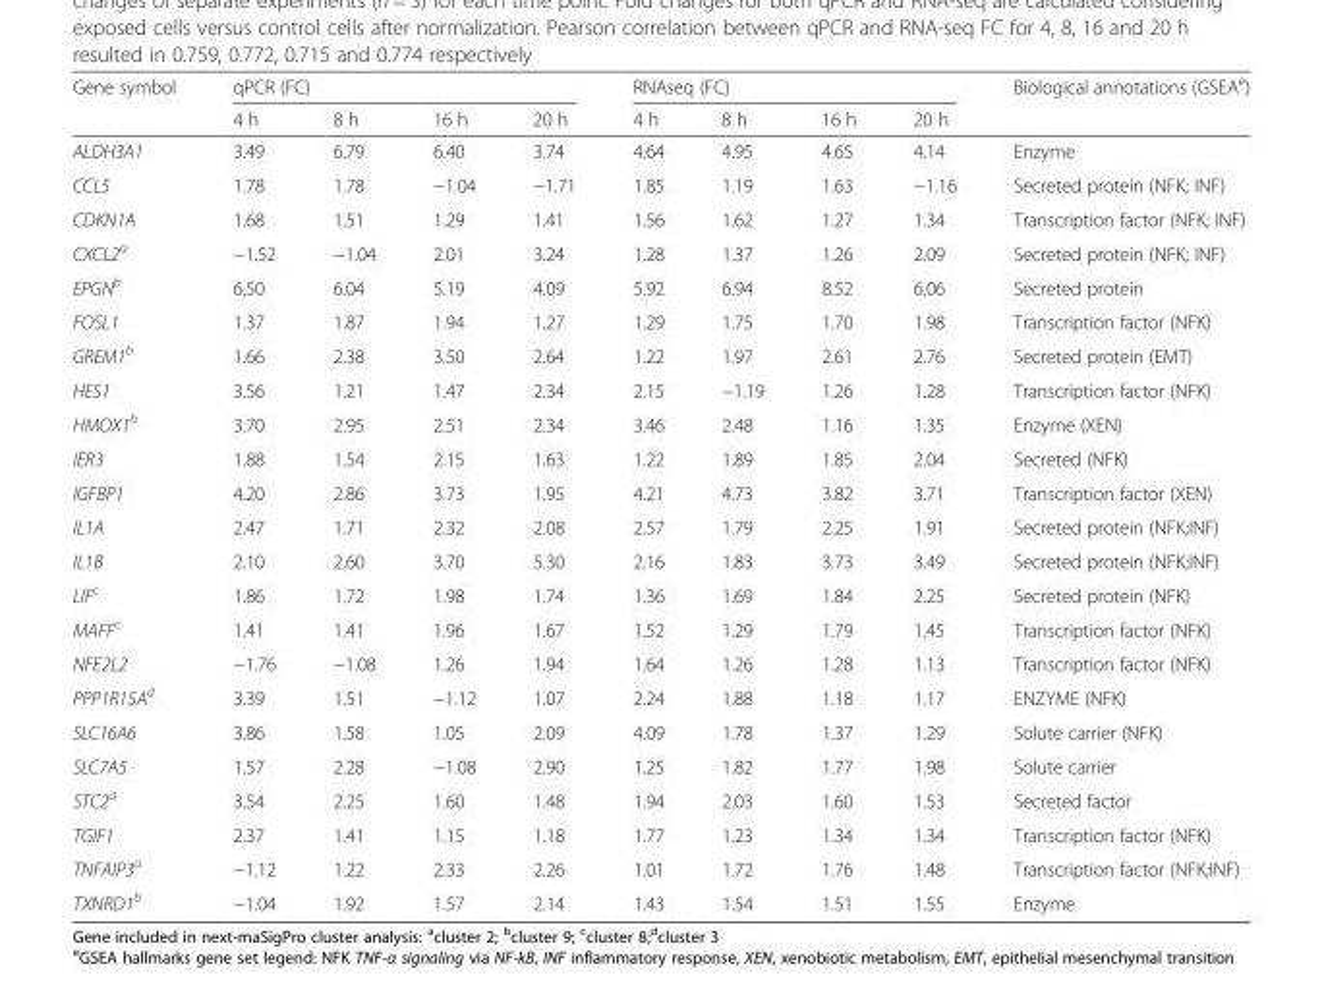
<table><thead><tr><td rowspan="2">Gene symbol</td><td colspan="4">qPCR (FC)</td><td colspan="4">RNAseq (FC)</td><td rowspan="2">Biological annotations (GSEA<sup>e</sup>)</td></tr><tr><td>4 h</td><td>8 h</td><td>16 h</td><td>20 h</td><td>4 h</td><td>8 h</td><td>16 h</td><td>20 h</td></tr></thead><tbody><tr><td>ALDH3A1</td><td>3.49</td><td>6.79</td><td>6.40</td><td>3.74</td><td>4.64</td><td>4.95</td><td>4.65</td><td>4.14</td><td>Enzyme</td></tr><tr><td>CCL5</td><td>1.78</td><td>1.78</td><td>−1.04</td><td>−1.71</td><td>1.85</td><td>1.19</td><td>1.63</td><td>−1.16</td><td>Secreted protein (NFK; INF)</td></tr><tr><td>CDKN1A</td><td>1.68</td><td>1.51</td><td>1.29</td><td>1.41</td><td>1.56</td><td>1.62</td><td>1.27</td><td>1.34</td><td>Transcription factor (NFK; INF)</td></tr><tr><td>CXCL2<sup>a</sup></td><td>−1.52</td><td>−1.04</td><td>2.01</td><td>3.24</td><td>1.28</td><td>1.37</td><td>1.26</td><td>2.09</td><td>Secreted protein (NFK; INF)</td></tr><tr><td>EPGN<sup>b</sup></td><td>6.50</td><td>6.04</td><td>5.19</td><td>4.09</td><td>5.92</td><td>6.94</td><td>8.52</td><td>6.06</td><td>Secreted protein</td></tr><tr><td>FOSL1</td><td>1.37</td><td>1.87</td><td>1.94</td><td>1.27</td><td>1.29</td><td>1.75</td><td>1.70</td><td>1.98</td><td>Transcription factor (NFK)</td></tr><tr><td>GREM1<sup>b</sup></td><td>1.66</td><td>2.38</td><td>3.50</td><td>2.64</td><td>1.22</td><td>1.97</td><td>2.61</td><td>2.76</td><td>Secreted protein (EMT)</td></tr><tr><td>HES1</td><td>3.56</td><td>1.21</td><td>1.47</td><td>2.34</td><td>2.15</td><td>−1.19</td><td>1.26</td><td>1.28</td><td>Transcription factor (NFK)</td></tr><tr><td>HMOX1<sup>b</sup></td><td>3.70</td><td>2.95</td><td>2.51</td><td>2.34</td><td>3.46</td><td>2.48</td><td>1.16</td><td>1.35</td><td>Enzyme (XEN)</td></tr><tr><td>IER3</td><td>1.88</td><td>1.54</td><td>2.15</td><td>1.63</td><td>1.22</td><td>1.89</td><td>1.85</td><td>2.04</td><td>Secreted (NFK)</td></tr><tr><td>IGFBP1</td><td>4.20</td><td>2.86</td><td>3.73</td><td>1.95</td><td>4.21</td><td>4.73</td><td>3.82</td><td>3.71</td><td>Transcription factor (XEN)</td></tr><tr><td>IL1A</td><td>2.47</td><td>1.71</td><td>2.32</td><td>2.08</td><td>2.57</td><td>1.79</td><td>2.25</td><td>1.91</td><td>Secreted protein (NFK;INF)</td></tr><tr><td>IL1B</td><td>2.10</td><td>2.60</td><td>3.70</td><td>5.30</td><td>2.16</td><td>1.83</td><td>3.73</td><td>3.49</td><td>Secreted protein (NFK;INF)</td></tr><tr><td>LIF<sup>c</sup></td><td>1.86</td><td>1.72</td><td>1.98</td><td>1.74</td><td>1.36</td><td>1.69</td><td>1.84</td><td>2.25</td><td>Secreted protein (NFK)</td></tr><tr><td>MAFF<sup>c</sup></td><td>1.41</td><td>1.41</td><td>1.96</td><td>1.67</td><td>1.52</td><td>1.29</td><td>1.79</td><td>1.45</td><td>Transcription factor (NFK)</td></tr><tr><td>NFE2L2</td><td>−1.76</td><td>−1.08</td><td>1.26</td><td>1.94</td><td>1.64</td><td>1.26</td><td>1.28</td><td>1.13</td><td>Transcription factor (NFK)</td></tr><tr><td>PPP1R15A<sup>d</sup></td><td>3.39</td><td>1.51</td><td>−1.12</td><td>1.07</td><td>2.24</td><td>1.88</td><td>1.18</td><td>1.17</td><td>ENZYME (NFK)</td></tr><tr><td>SLC16A6</td><td>3.86</td><td>1.58</td><td>1.05</td><td>2.09</td><td>4.09</td><td>1.78</td><td>1.37</td><td>1.29</td><td>Solute carrier (NFK)</td></tr><tr><td>SLC7A5</td><td>1.57</td><td>2.28</td><td>−1.08</td><td>2.90</td><td>1.25</td><td>1.82</td><td>1.77</td><td>1.98</td><td>Solute carrier</td></tr><tr><td>STC2<sup>a</sup></td><td>3.54</td><td>2.25</td><td>1.60</td><td>1.48</td><td>1.94</td><td>2.03</td><td>1.60</td><td>1.53</td><td>Secreted factor</td></tr><tr><td>TGIF1</td><td>2.37</td><td>1.41</td><td>1.15</td><td>1.18</td><td>1.77</td><td>1.23</td><td>1.34</td><td>1.34</td><td>Transcription factor (NFK)</td></tr><tr><td>TNFAIP3<sup>a</sup></td><td>−1.12</td><td>1.22</td><td>2.33</td><td>2.26</td><td>1.01</td><td>1.72</td><td>1.76</td><td>1.48</td><td>Transcription factor (NFK;INF)</td></tr><tr><td>TXNRD1<sup>b</sup></td><td>−1.04</td><td>1.92</td><td>1.57</td><td>2.14</td><td>1.43</td><td>1.54</td><td>1.51</td><td>1.55</td><td>Enzyme</td></tr></tbody></table>